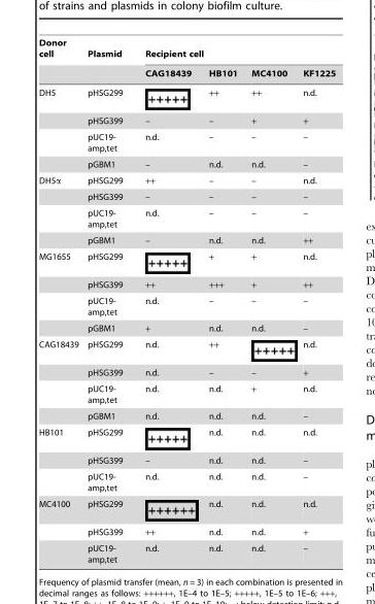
<table><thead><tr><td rowspan="2">Donor cell</td><td rowspan="2">Plasmid</td><td colspan="4">Recipient cell</td></tr><tr><td>CAG18439</td><td>HB101</td><td>MC4100</td><td>KF1225</td></tr></thead><tbody><tr><td rowspan="4">DH5</td><td>pHSG299</td><td></td><td>++</td><td>++</td><td>n.d.</td></tr><tr><td>pHSG399</td><td>–</td><td>–</td><td>+</td><td>+</td></tr><tr><td>pUC19- amp,tet</td><td>n.d.</td><td>–</td><td>–</td><td>–</td></tr><tr><td>pGBM1</td><td>–</td><td>n.d.</td><td>n.d.</td><td>–</td></tr><tr><td rowspan="4">DH5α</td><td>pHSG299</td><td>++</td><td>–</td><td>–</td><td>n.d.</td></tr><tr><td>pHSG399</td><td>–</td><td>–</td><td>–</td><td>–</td></tr><tr><td>pUC19- amp,tet</td><td>n.d.</td><td>–</td><td>–</td><td>–</td></tr><tr><td>pGBM1</td><td>–</td><td>n.d.</td><td>n.d.</td><td>++</td></tr><tr><td rowspan="4">MG1655</td><td>pHSG299</td><td></td><td>+</td><td>+</td><td>n.d.</td></tr><tr><td>pHSG399</td><td>++</td><td>+++</td><td>+</td><td>++</td></tr><tr><td>pUC19- amp,tet</td><td>n.d.</td><td>–</td><td>–</td><td>–</td></tr><tr><td>pGBM1</td><td>+</td><td>n.d.</td><td>n.d.</td><td>–</td></tr><tr><td rowspan="4">CAG18439</td><td>pHSG299</td><td>n.d.</td><td>++</td><td></td><td>n.d.</td></tr><tr><td>pHSG399</td><td>n.d.</td><td>–</td><td>–</td><td>+</td></tr><tr><td>pUC19- amp,tet</td><td>n.d.</td><td>n.d.</td><td>+</td><td>n.d.</td></tr><tr><td>pGBM1</td><td>n.d.</td><td>n.d.</td><td>n.d.</td><td>–</td></tr><tr><td rowspan="3">HB101</td><td>pHSG299</td><td></td><td>n.d.</td><td>n.d.</td><td>n.d.</td></tr><tr><td>pHSG399</td><td>–</td><td>n.d.</td><td>n.d.</td><td>–</td></tr><tr><td>pUC19- amp,tet</td><td>n.d.</td><td>n.d.</td><td>n.d.</td><td>–</td></tr><tr><td rowspan="3">MC4100</td><td>pHSG299</td><td></td><td>n.d.</td><td>n.d.</td><td>n.d.</td></tr><tr><td>pHSG399</td><td>++</td><td>n.d.</td><td>n.d.</td><td>+</td></tr><tr><td>pUC19- amp,tet</td><td>n.d.</td><td>n.d.</td><td>n.d.</td><td>–</td></tr></tbody></table>